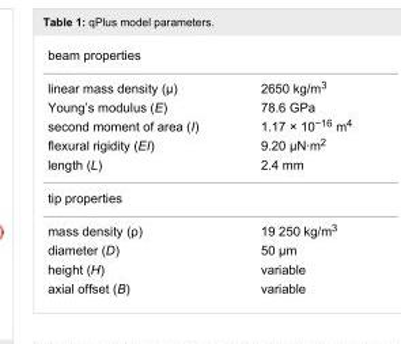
<table><tbody><tr><td colspan="2">beam properties</td></tr><tr><td>linear mass density (μ)</td><td>2650 kg/m<sup>3</sup></td></tr><tr><td>Young’s modulus (E)</td><td>78.6 GPa</td></tr><tr><td>second moment of area (I)</td><td>1.17 × 10<sup>−16</sup> m<sup>4</sup></td></tr><tr><td>flexural rigidity (EI)</td><td>9.20 μN·m<sup>2</sup></td></tr><tr><td>length (L)</td><td>2.4 mm</td></tr><tr><td colspan="2">tip properties</td></tr><tr><td>mass density (ρ)</td><td>19 250 kg/m<sup>3</sup></td></tr><tr><td>diameter (D)</td><td>50 μm</td></tr><tr><td>height (H)</td><td>variable</td></tr><tr><td>axial offset (B)</td><td>variable</td></tr></tbody></table>